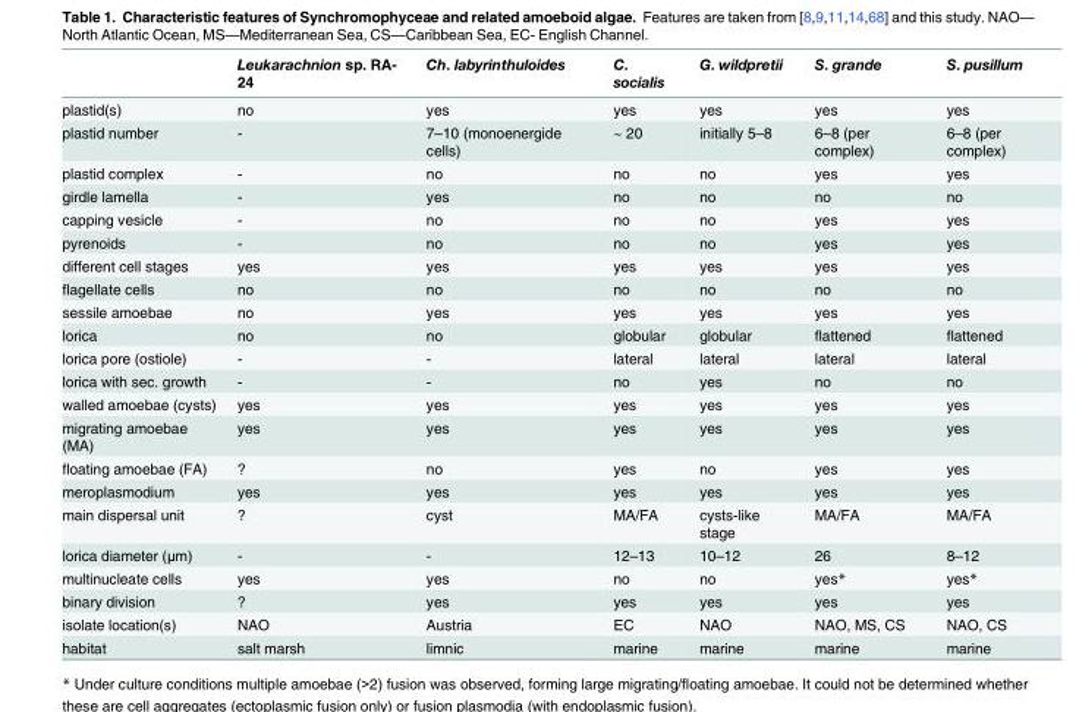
<table><thead><tr><td></td><td>Leukarachnion sp. RA- 24</td><td>Ch. labyrinthuloides</td><td>C. socialis</td><td>G. wildpretii</td><td>S. grande</td><td>S. pusillum</td></tr></thead><tbody><tr><td>plastid(s)</td><td>no</td><td>yes</td><td>yes</td><td>yes</td><td>yes</td><td>yes</td></tr><tr><td>plastid number</td><td>-</td><td>7–10 (monoenergide cells)</td><td>~ 20</td><td>initially 5–8</td><td>6–8 (per complex)</td><td>6–8 (per complex)</td></tr><tr><td>plastid complex</td><td>-</td><td>no</td><td>no</td><td>no</td><td>yes</td><td>yes</td></tr><tr><td>girdle lamella</td><td>-</td><td>yes</td><td>no</td><td>no</td><td>no</td><td>no</td></tr><tr><td>capping vesicle</td><td>-</td><td>no</td><td>no</td><td>no</td><td>yes</td><td>yes</td></tr><tr><td>pyrenoids</td><td>-</td><td>no</td><td>no</td><td>no</td><td>yes</td><td>yes</td></tr><tr><td>different cell stages</td><td>yes</td><td>yes</td><td>yes</td><td>yes</td><td>yes</td><td>yes</td></tr><tr><td>flagellate cells</td><td>no</td><td>no</td><td>no</td><td>no</td><td>no</td><td>no</td></tr><tr><td>sessile amoebae</td><td>no</td><td>yes</td><td>yes</td><td>yes</td><td>yes</td><td>yes</td></tr><tr><td>lorica</td><td>no</td><td>no</td><td>globular</td><td>globular</td><td>flattened</td><td>flattened</td></tr><tr><td>lorica pore (ostiole)</td><td>-</td><td>-</td><td>lateral</td><td>lateral</td><td>lateral</td><td>lateral</td></tr><tr><td>lorica with sec. growth</td><td>-</td><td>-</td><td>no</td><td>yes</td><td>no</td><td>no</td></tr><tr><td>walled amoebae (cysts)</td><td>yes</td><td>yes</td><td>yes</td><td>yes</td><td>yes</td><td>yes</td></tr><tr><td>migrating amoebae (MA)</td><td>yes</td><td>yes</td><td>yes</td><td>yes</td><td>yes</td><td>yes</td></tr><tr><td>floating amoebae (FA)</td><td>?</td><td>no</td><td>yes</td><td>no</td><td>yes</td><td>yes</td></tr><tr><td>meroplasmodium</td><td>yes</td><td>yes</td><td>yes</td><td>yes</td><td>yes</td><td>yes</td></tr><tr><td>main dispersal unit</td><td>?</td><td>cyst</td><td>MA/FA</td><td>cysts-like stage</td><td>MA/FA</td><td>MA/FA</td></tr><tr><td>lorica diameter (μm)</td><td>-</td><td>-</td><td>12–13</td><td>10–12</td><td>26</td><td>8–12</td></tr><tr><td>multinucleate cells</td><td>yes</td><td>yes</td><td>no</td><td>no</td><td>yes*</td><td>yes*</td></tr><tr><td>binary division</td><td>?</td><td>yes</td><td>yes</td><td>yes</td><td>yes</td><td>yes</td></tr><tr><td>isolate location(s)</td><td>NAO</td><td>Austria</td><td>EC</td><td>NAO</td><td>NAO, MS, CS</td><td>NAO, CS</td></tr><tr><td>habitat</td><td>salt marsh</td><td>limnic</td><td>marine</td><td>marine</td><td>marine</td><td>marine</td></tr></tbody></table>